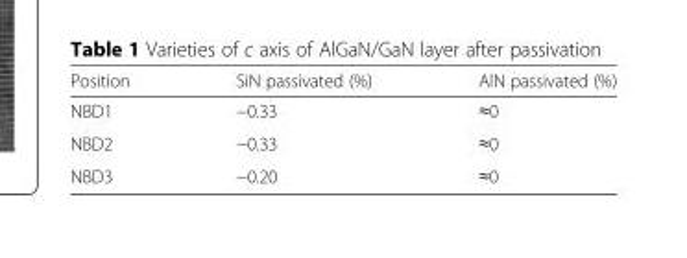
<table><thead><tr><td>Position</td><td>SiN passivated (%)</td><td>AlN passivated (%)</td></tr></thead><tbody><tr><td>NBD1</td><td>−0.33</td><td>≈0</td></tr><tr><td>NBD2</td><td>−0.33</td><td>≈0</td></tr><tr><td>NBD3</td><td>−0.20</td><td>≈0</td></tr></tbody></table>